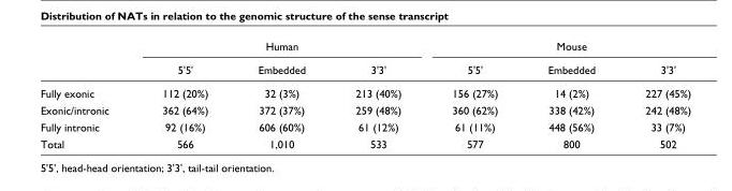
<table><thead><tr><td rowspan="2"></td><td colspan="3">Human</td><td colspan="3">Mouse</td></tr><tr><td>5&#x27;5&#x27;</td><td>Embedded</td><td>3&#x27;3&#x27;</td><td>5&#x27;5&#x27;</td><td>Embedded</td><td>3&#x27;3&#x27;</td></tr></thead><tbody><tr><td>Fully exonic</td><td>112 (20%)</td><td>32 (3%)</td><td>213 (40%)</td><td>156 (27%)</td><td>14 (2%)</td><td>227 (45%)</td></tr><tr><td>Exonic/intronic</td><td>362 (64%)</td><td>372 (37%)</td><td>259 (48%)</td><td>360 (62%)</td><td>338 (42%)</td><td>242 (48%)</td></tr><tr><td>Fully intronic</td><td>92 (16%)</td><td>606 (60%)</td><td>61 (12%)</td><td>61 (11%)</td><td>448 (56%)</td><td>33 (7%)</td></tr><tr><td>Total</td><td>566</td><td>1,010</td><td>533</td><td>577</td><td>800</td><td>502</td></tr></tbody></table>